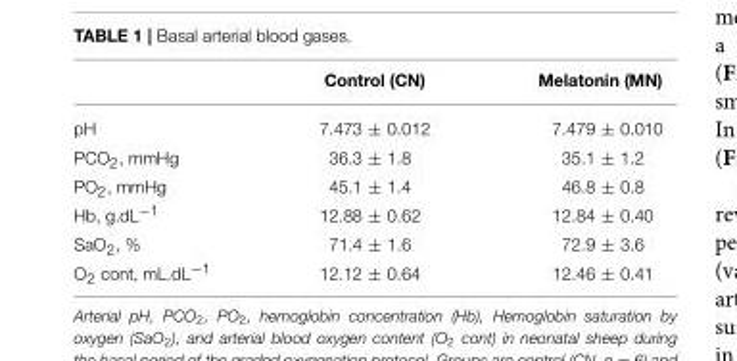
<table><thead><tr><td></td><td>Control (CN)</td><td>Melatonin (MN)</td></tr></thead><tbody><tr><td>pH</td><td>7.473 ± 0.012</td><td>7.479 ± 0.010</td></tr><tr><td>PCO<sub>2</sub>, mmHg</td><td>36.3 ± 1.8</td><td>35.1 ± 1.2</td></tr><tr><td>PO<sub>2</sub>, mmHg</td><td>45.1 ± 1.4</td><td>46.8 ± 0.8</td></tr><tr><td>Hb, g.dL<sup>−1</sup></td><td>12.88 ± 0.62</td><td>12.84 ± 0.40</td></tr><tr><td>SaO<sub>2</sub>, %</td><td>71.4 ± 1.6</td><td>72.9 ± 3.6</td></tr><tr><td>O<sub>2</sub> cont, mL.dL<sup>−1</sup></td><td>12.12 ± 0.64</td><td>12.46 ± 0.41</td></tr></tbody></table>